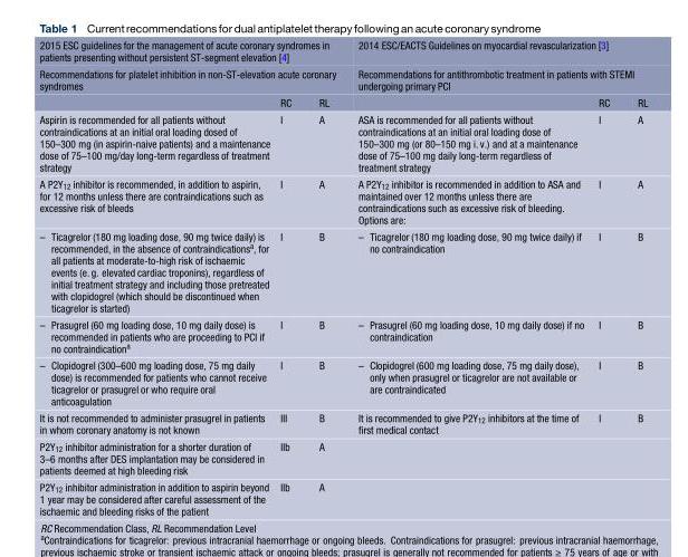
<table><thead><tr><td rowspan="2" colspan="3">2015 ESC guidelines for the management of acute coronary syndromes in patients presenting without persistent ST-segment elevation [4] Recommendations for platelet inhibition in non-ST-elevation acute coronary syndromes</td><td rowspan="2" colspan="3">2014 ESC/EACTS Guidelines on myocardial revascularization [3] Recommendations for antithrombotic treatment in patients with STEMI undergoing primary PCI</td></tr><tr></tr><tr><td></td><td>RC</td><td>RL</td><td></td><td>RC</td><td>RL</td></tr></thead><tbody><tr><td>Aspirin is recommended for all patients without contraindications at an initial oral loading dosed of 150–300 mg (in aspirin-naive patients) and a maintenance dose of 75–100 mg/day long-term regardless of treatment strategy</td><td>I</td><td>A</td><td>ASA is recommended for all patients without contraindications at an initial oral loading dose of 150–300 mg (or 80–150 mg i. v.) and at a maintenance dose of 75–100 mg daily long-term regardless of treatment strategy</td><td>I</td><td>A</td></tr><tr><td>A P2Y<sub>12</sub> inhibitor is recommended, in addition to aspirin, for 12 months unless there are contraindications such as excessive risk of bleeds</td><td>I</td><td>A</td><td>A P2Y<sub>12</sub> inhibitor is recommended in addition to ASA and maintained over 12 months unless there are contraindications such as excessive risk of bleeding. Options are:</td><td>I</td><td>A</td></tr><tr><td>– Ticagrelor (180 mg loading dose, 90 mg twice daily) is recommended, in the absence of contraindications<sup>a</sup>, for all patients at moderate-to-high risk of ischaemic events (e. g. elevated cardiac troponins), regardless of initial treatment strategy and including those pretreated with clopidogrel (which should be discontinued when ticagrelor is started)</td><td>I</td><td>B</td><td>– Ticagrelor (180 mg loading dose, 90 mg twice daily) if no contraindication</td><td>I</td><td>B</td></tr><tr><td>– Prasugrel (60 mg loading dose, 10 mg daily dose) is recommended in patients who are proceeding to PCI if no contraindication<sup>a</sup></td><td>I</td><td>B</td><td>– Prasugrel (60 mg loading dose, 10 mg daily dose) if no contraindication</td><td>I</td><td>B</td></tr><tr><td>– Clopidogrel (300–600 mg loading dose, 75 mg daily dose) is recommended for patients who cannot receive ticagrelor or prasugrel or who require oral anticoagulation</td><td>I</td><td>B</td><td>– Clopidogrel (600 mg loading dose, 75 mg daily dose), only when prasugrel or ticagrelor are not available or are contraindicated</td><td>I</td><td>B</td></tr><tr><td>It is not recommended to administer prasugrel in patients in whom coronary anatomy is not known</td><td>III</td><td>B</td><td>It is recommended to give P2Y<sub>12</sub> inhibitors at the time of first medical contact</td><td>I</td><td>B</td></tr><tr><td>P2Y<sub>12</sub> inhibitor administration for a shorter duration of 3–6 months after DES implantation may be considered in patients deemed at high bleeding risk</td><td>IIb</td><td>A</td><td></td><td></td><td></td></tr><tr><td>P2Y<sub>12</sub> inhibitor administration in addition to aspirin beyond 1 year may be considered after careful assessment of the ischaemic and bleeding risks of the patient</td><td>IIb</td><td>A</td><td></td><td></td><td></td></tr></tbody></table>